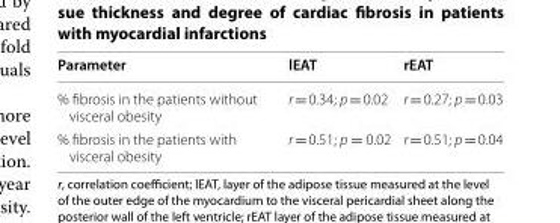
<table><thead><tr><td>Parameter</td><td>lEAT</td><td>rEAT</td></tr></thead><tbody><tr><td>% fibrosis in the patients without visceral obesity</td><td>r = 0.34; p = 0.02</td><td>r = 0.27; p = 0.03</td></tr><tr><td>% fibrosis in the patients with visceral obesity</td><td>r = 0.51; p = 0.02</td><td>r = 0.51; p = 0.04</td></tr></tbody></table>